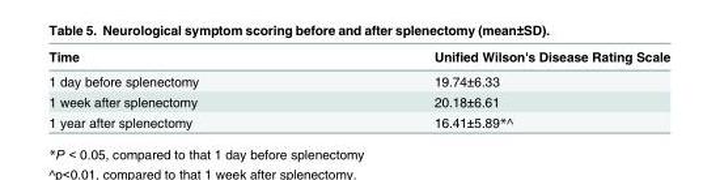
<table><thead><tr><td>Time</td><td>Unified Wilson&#x27;s Disease Rating Scale</td></tr></thead><tbody><tr><td>1 day before splenectomy</td><td>19.74±6.33</td></tr><tr><td>1 week after splenectomy</td><td>20.18±6.61</td></tr><tr><td>1 year after splenectomy</td><td>16.41±5.89*^</td></tr></tbody></table>